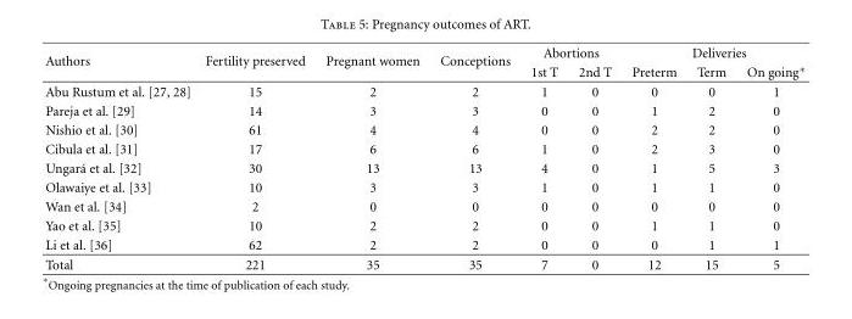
<table><thead><tr><td rowspan="2">Authors</td><td rowspan="2">Fertility preserved</td><td rowspan="2">Pregnant women</td><td rowspan="2">Conceptions</td><td colspan="2">Abortions</td><td colspan="3">Deliveries</td></tr><tr><td>1st T</td><td>2nd T</td><td>Preterm</td><td>Term</td><td>On going∗</td></tr></thead><tbody><tr><td>Abu Rustum et al. [27, 28]</td><td>15</td><td>2</td><td>2</td><td>1</td><td>0</td><td>0</td><td>0</td><td>1</td></tr><tr><td>Pareja et al. [29]</td><td>14</td><td>3</td><td>3</td><td>0</td><td>0</td><td>1</td><td>2</td><td>0</td></tr><tr><td>Nishio et al. [30]</td><td>61</td><td>4</td><td>4</td><td>0</td><td>0</td><td>2</td><td>2</td><td>0</td></tr><tr><td>Cibula et al. [31]</td><td>17</td><td>6</td><td>6</td><td>1</td><td>0</td><td>2</td><td>3</td><td>0</td></tr><tr><td>Ungar´a et al. [32]</td><td>30</td><td>13</td><td>13</td><td>4</td><td>0</td><td>1</td><td>5</td><td>3</td></tr><tr><td>Olawaiye et al. [33]</td><td>10</td><td>3</td><td>3</td><td>1</td><td>0</td><td>1</td><td>1</td><td>0</td></tr><tr><td>Wan et al. [34]</td><td>2</td><td>0</td><td>0</td><td>0</td><td>0</td><td>0</td><td>0</td><td>0</td></tr><tr><td>Yao et al. [35]</td><td>10</td><td>2</td><td>2</td><td>0</td><td>0</td><td>1</td><td>1</td><td>0</td></tr><tr><td>Li et al. [36]</td><td>62</td><td>2</td><td>2</td><td>0</td><td>0</td><td>0</td><td>1</td><td>1</td></tr><tr><td>Total</td><td>221</td><td>35</td><td>35</td><td>7</td><td>0</td><td>12</td><td>15</td><td>5</td></tr></tbody></table>